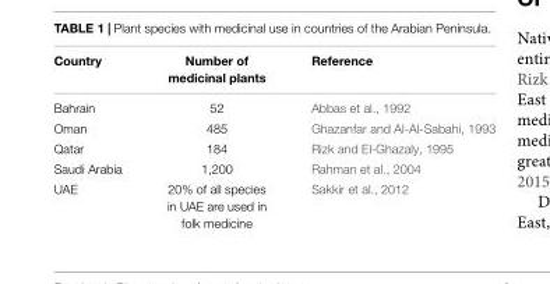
<table><thead><tr><td>Country</td><td>Number of medicinal plants</td><td>Reference</td></tr></thead><tbody><tr><td>Bahrain</td><td>52</td><td>Abbas et al., 1992</td></tr><tr><td>Oman</td><td>485</td><td>Ghazanfar and Al-Al-Sabahi, 1993</td></tr><tr><td>Qatar</td><td>184</td><td>Rizk and El-Ghazaly, 1995</td></tr><tr><td>Saudi Arabia</td><td>1,200</td><td>Rahman et al., 2004</td></tr><tr><td>UAE</td><td>20% of all species in UAE are used in folk medicine</td><td>Sakkir et al., 2012</td></tr></tbody></table>